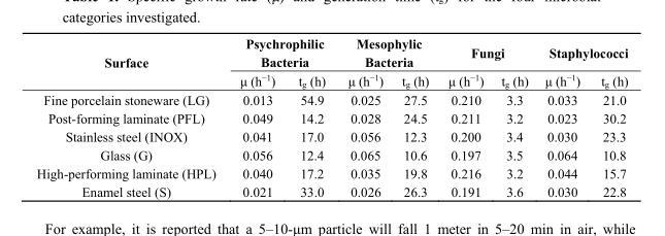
<table><thead><tr><td rowspan="2">Surface</td><td colspan="2">Psychrophilic Bacteria</td><td colspan="2">Mesophylic Bacteria</td><td colspan="2">Fungi</td><td colspan="2">Staphylococci</td></tr><tr><td>μ (h<sup>−1</sup>)</td><td>t<sub>g</sub> (h)</td><td>μ (h<sup>−1</sup>)</td><td>t<sub>g</sub> (h)</td><td>μ (h<sup>−1</sup>)</td><td>t<sub>g</sub> (h)</td><td>μ (h<sup>−1</sup>)</td><td>t<sub>g</sub> (h)</td></tr></thead><tbody><tr><td>Fine porcelain stoneware (LG)</td><td>0.013</td><td>54.9</td><td>0.025</td><td>27.5</td><td>0.210</td><td>3.3</td><td>0.033</td><td>21.0</td></tr><tr><td>Post-forming laminate (PFL)</td><td>0.049</td><td>14.2</td><td>0.028</td><td>24.5</td><td>0.211</td><td>3.2</td><td>0.023</td><td>30.2</td></tr><tr><td>Stainless steel (INOX)</td><td>0.041</td><td>17.0</td><td>0.056</td><td>12.3</td><td>0.200</td><td>3.4</td><td>0.030</td><td>23.3</td></tr><tr><td>Glass (G)</td><td>0.056</td><td>12.4</td><td>0.065</td><td>10.6</td><td>0.197</td><td>3.5</td><td>0.064</td><td>10.8</td></tr><tr><td>High-performing laminate (HPL)</td><td>0.040</td><td>17.2</td><td>0.035</td><td>19.8</td><td>0.216</td><td>3.2</td><td>0.044</td><td>15.7</td></tr><tr><td>Enamel steel (S)</td><td>0.021</td><td>33.0</td><td>0.026</td><td>26.3</td><td>0.191</td><td>3.6</td><td>0.030</td><td>22.8</td></tr></tbody></table>